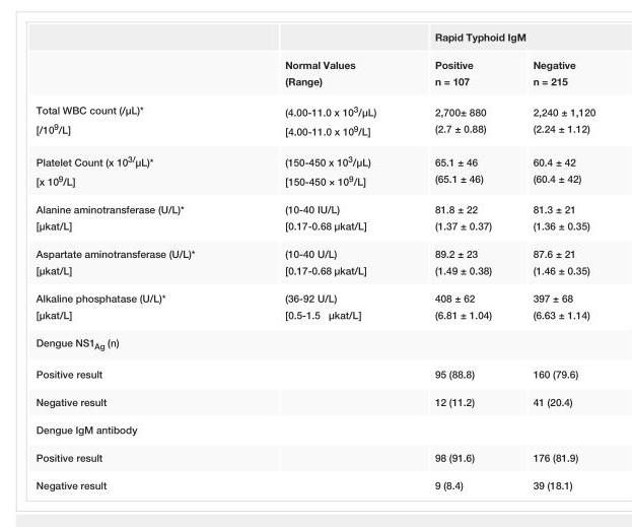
<table><thead><tr><td rowspan="2"></td><td rowspan="2">Normal Values (Range)</td><td colspan="2">Rapid Typhoid IgM</td></tr><tr><td>Positive n = 107</td><td>Negative n = 215</td></tr></thead><tbody><tr><td>Total WBC count (/μL)* [/10<sup>9</sup>/L]</td><td>(4.00-11.0 x 10<sup>3</sup>/μL) [4.00-11.0 x 10<sup>9</sup>/L]</td><td>2,700± 880 (2.7 ± 0.88)</td><td>2,240 ± 1,120 (2.24 ± 1.12)</td></tr><tr><td>Platelet Count (x 10<sup>3/</sup>μL)* [x 10<sup>9</sup>/L]</td><td>(150-450 x 10<sup>3</sup>/μL) [150-450 × 10<sup>9</sup>/L]</td><td>65.1 ± 46 (65.1 ± 46)</td><td>60.4 ± 42 (60.4 ± 42)</td></tr><tr><td>Alanine aminotransferase (U/L)* [μkat/L]</td><td>(10-40 IU/L) [0.17-0.68 μkat/L]</td><td>81.8 ± 22 (1.37 ± 0.37)</td><td>81.3 ± 21 (1.36 ± 0.35)</td></tr><tr><td>Aspartate aminotransferase (U/L)* [μkat/L]</td><td>(10-40 U/L) [0.17-0.68 μkat/L]</td><td>89.2 ± 23 (1.49 ± 0.38)</td><td>87.6 ± 21 (1.46 ± 0.35)</td></tr><tr><td>Alkaline phosphatase (U/L)* [μkat/L]</td><td>(36-92 U/L) [0.5-1.5 μkat/L]</td><td>408 ± 62 (6.81 ± 1.04)</td><td>397 ± 68 (6.63 ± 1.14)</td></tr><tr><td colspan="4">Dengue NS1<sub>Ag</sub> (n)</td></tr><tr><td>Positive result</td><td></td><td>95 (88.8)</td><td>160 (79.6)</td></tr><tr><td>Negative result</td><td></td><td>12 (11.2)</td><td>41 (20.4)</td></tr><tr><td colspan="4">Dengue IgM antibody</td></tr><tr><td>Positive result</td><td></td><td>98 (91.6)</td><td>176 (81.9)</td></tr><tr><td>Negative result</td><td></td><td>9 (8.4)</td><td>39 (18.1)</td></tr></tbody></table>